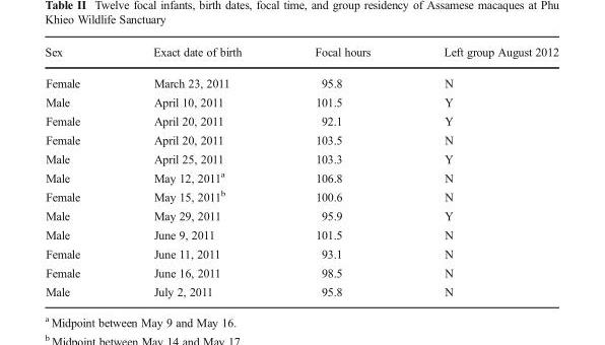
<table><thead><tr><td>Sex</td><td>Exact date of birth</td><td>Focal hours</td><td>Left group August 2012</td></tr></thead><tbody><tr><td>Female</td><td>March 23, 2011</td><td>95.8</td><td>N</td></tr><tr><td>Male</td><td>April 10, 2011</td><td>101.5</td><td>Y</td></tr><tr><td>Female</td><td>April 20, 2011</td><td>92.1</td><td>Y</td></tr><tr><td>Female</td><td>April 20, 2011</td><td>103.5</td><td>N</td></tr><tr><td>Male</td><td>April 25, 2011</td><td>103.3</td><td>Y</td></tr><tr><td>Male</td><td>May 12, 2011<sup>a</sup></td><td>106.8</td><td>N</td></tr><tr><td>Female</td><td>May 15, 2011<sup>b</sup></td><td>100.6</td><td>N</td></tr><tr><td>Male</td><td>May 29, 2011</td><td>95.9</td><td>Y</td></tr><tr><td>Male</td><td>June 9, 2011</td><td>101.5</td><td>N</td></tr><tr><td>Female</td><td>June 11, 2011</td><td>93.1</td><td>N</td></tr><tr><td>Female</td><td>June 16, 2011</td><td>98.5</td><td>N</td></tr><tr><td>Male</td><td>July 2, 2011</td><td>95.8</td><td>N</td></tr></tbody></table>